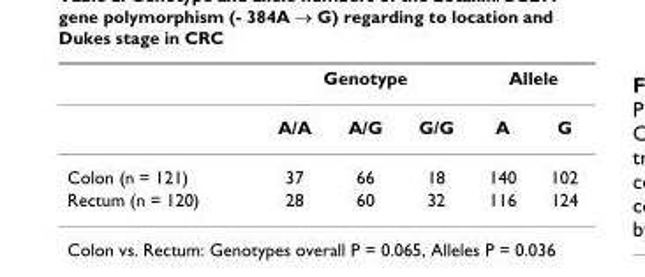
<table><thead><tr><td rowspan="2"></td><td colspan="3">Genotype</td><td colspan="2">Allele</td></tr><tr><td>A/A</td><td>A/G</td><td>G/G</td><td>A</td><td>G</td></tr></thead><tbody><tr><td>Colon (n = 121)</td><td>37</td><td>66</td><td>18</td><td>140</td><td>102</td></tr><tr><td>Rectum (n = 120)</td><td>28</td><td>60</td><td>32</td><td>116</td><td>124</td></tr></tbody></table>